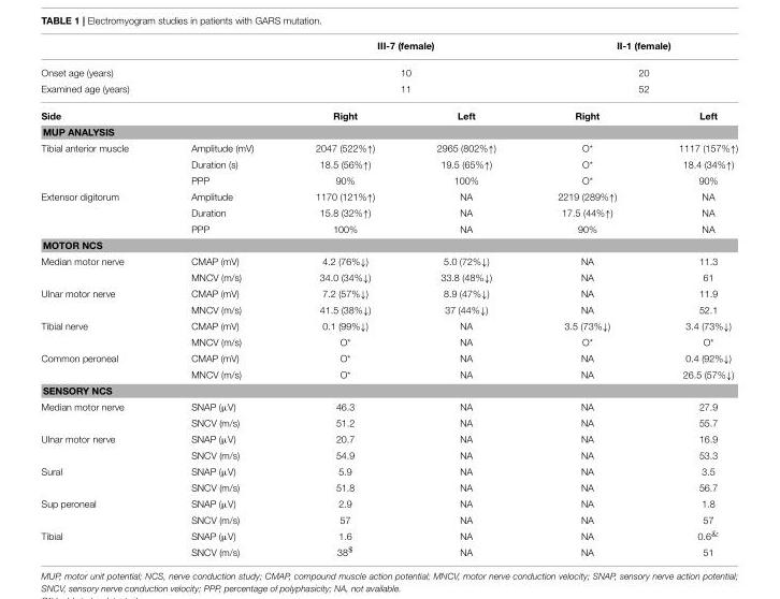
<table><thead><tr><td rowspan="4">Onset age (years) Examined age (years) Side</td><td rowspan="4"></td><td rowspan="3" colspan="2">III-7 (female) 10 11</td><td rowspan="3" colspan="2">II-1 (female) 20 52</td></tr><tr></tr><tr></tr><tr><td>Right</td><td>Left</td><td>Right</td><td>Left</td></tr></thead><tbody><tr><td colspan="6">MUP ANALYSIS</td></tr><tr><td rowspan="3">Tibial anterior muscle</td><td>Amplitude (mV)</td><td>2047 (522%↑)</td><td>2965 (802%↑)</td><td>O*</td><td>1117 (157%↑)</td></tr><tr><td>Duration (s)</td><td>18.5 (56%↑)</td><td>19.5 (65%↑)</td><td>O*</td><td>18.4 (34%↑)</td></tr><tr><td>PPP</td><td>90%</td><td>100%</td><td>O*</td><td>90%</td></tr><tr><td rowspan="3">Extensor digitorum</td><td>Amplitude</td><td>1170 (121%↑)</td><td>NA</td><td>2219 (289%↑)</td><td>NA</td></tr><tr><td>Duration</td><td>15.8 (32%↑)</td><td>NA</td><td>17.5 (44%↑)</td><td>NA</td></tr><tr><td>PPP</td><td>100%</td><td>NA</td><td>90%</td><td>NA</td></tr><tr><td colspan="6">MOTOR NCS</td></tr><tr><td rowspan="2">Median motor nerve</td><td>CMAP (mV)</td><td>4.2 (76%↓)</td><td>5.0 (72%↓)</td><td>NA</td><td>11.3</td></tr><tr><td>MNCV (m/s)</td><td>34.0 (34%↓)</td><td>33.8 (48%↓)</td><td>NA</td><td>61</td></tr><tr><td rowspan="2">Ulnar motor nerve</td><td>CMAP (mV)</td><td>7.2 (57%↓)</td><td>8.9 (47%↓)</td><td>NA</td><td>11.9</td></tr><tr><td>MNCV (m/s)</td><td>41.5 (38%↓)</td><td>37 (44%↓)</td><td>NA</td><td>52.1</td></tr><tr><td rowspan="2">Tibial nerve</td><td>CMAP (mV)</td><td>0.1 (99%↓)</td><td>NA</td><td>3.5 (73%↓)</td><td>3.4 (73%↓)</td></tr><tr><td>MNCV (m/s)</td><td>O*</td><td>NA</td><td>O*</td><td>O*</td></tr><tr><td rowspan="2">Common peroneal</td><td>CMAP (mV)</td><td>O*</td><td>NA</td><td>NA</td><td>0.4 (92%↓)</td></tr><tr><td>MNCV (m/s)</td><td>O*</td><td>NA</td><td>NA</td><td>26.5 (57%↓)</td></tr><tr><td colspan="6">SENSORY NCS</td></tr><tr><td rowspan="2">Median motor nerve</td><td>SNAP (µV)</td><td>46.3</td><td>NA</td><td>NA</td><td>27.9</td></tr><tr><td>SNCV (m/s)</td><td>51.2</td><td>NA</td><td>NA</td><td>55.7</td></tr><tr><td rowspan="2">Ulnar motor nerve</td><td>SNAP (µV)</td><td>20.7</td><td>NA</td><td>NA</td><td>16.9</td></tr><tr><td>SNCV (m/s)</td><td>54.9</td><td>NA</td><td>NA</td><td>53.3</td></tr><tr><td rowspan="2">Sural</td><td>SNAP (µV)</td><td>5.9</td><td>NA</td><td>NA</td><td>3.5</td></tr><tr><td>SNCV (m/s)</td><td>51.8</td><td>NA</td><td>NA</td><td>56.7</td></tr><tr><td rowspan="2">Sup peroneal</td><td>SNAP (µV)</td><td>2.9</td><td>NA</td><td>NA</td><td>1.8</td></tr><tr><td>SNCV (m/s)</td><td>57</td><td>NA</td><td>NA</td><td>57</td></tr><tr><td rowspan="2">Tibial</td><td>SNAP (µV)</td><td>1.6</td><td>NA</td><td>NA</td><td>0.6<sup>&amp;</sup></td></tr><tr><td>SNCV (m/s)</td><td>38<sup>$</sup></td><td>NA</td><td>NA</td><td>51</td></tr></tbody></table>